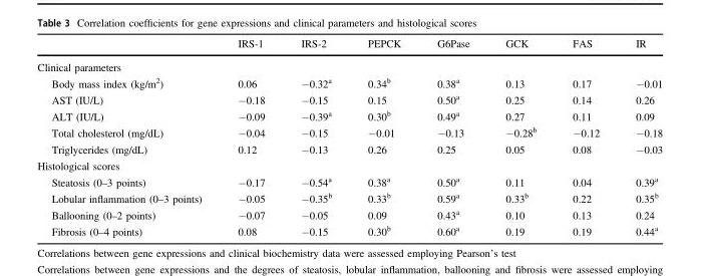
<table><thead><tr><td></td><td>IRS-1</td><td>IRS-2</td><td>PEPCK</td><td>G6Pase</td><td>GCK</td><td>FAS</td><td>IR</td></tr></thead><tbody><tr><td colspan="8">Clinical parameters</td></tr><tr><td>Body mass index (kg/m<sup>2</sup>)</td><td>0.06</td><td>−0.32<sup>a</sup></td><td>0.34<sup>b</sup></td><td>0.38<sup>a</sup></td><td>0.13</td><td>0.17</td><td>−0.01</td></tr><tr><td>AST (IU/L)</td><td>−0.18</td><td>−0.15</td><td>0.15</td><td>0.50<sup>a</sup></td><td>0.25</td><td>0.14</td><td>0.26</td></tr><tr><td>ALT (IU/L)</td><td>−0.09</td><td>−0.39<sup>a</sup></td><td>0.30<sup>b</sup></td><td>0.49<sup>a</sup></td><td>0.27</td><td>0.11</td><td>0.09</td></tr><tr><td>Total cholesterol (mg/dL)</td><td>−0.04</td><td>−0.15</td><td>−0.01</td><td>−0.13</td><td>−0.28<sup>b</sup></td><td>−0.12</td><td>−0.18</td></tr><tr><td>Triglycerides (mg/dL)</td><td>0.12</td><td>−0.13</td><td>0.26</td><td>0.25</td><td>0.05</td><td>0.08</td><td>−0.03</td></tr><tr><td colspan="8">Histological scores</td></tr><tr><td>Steatosis (0–3 points)</td><td>−0.17</td><td>−0.54<sup>a</sup></td><td>0.38<sup>a</sup></td><td>0.50<sup>a</sup></td><td>0.11</td><td>0.04</td><td>0.39<sup>a</sup></td></tr><tr><td>Lobular inflammation (0–3 points)</td><td>−0.05</td><td>−0.35<sup>b</sup></td><td>0.33<sup>b</sup></td><td>0.59<sup>a</sup></td><td>0.33<sup>b</sup></td><td>0.22</td><td>0.35<sup>b</sup></td></tr><tr><td>Ballooning (0–2 points)</td><td>−0.07</td><td>−0.05</td><td>0.09</td><td>0.43<sup>a</sup></td><td>0.10</td><td>0.13</td><td>0.24</td></tr><tr><td>Fibrosis (0–4 points)</td><td>0.08</td><td>−0.15</td><td>0.30<sup>b</sup></td><td>0.60<sup>a</sup></td><td>0.19</td><td>0.19</td><td>0.44<sup>a</sup></td></tr></tbody></table>